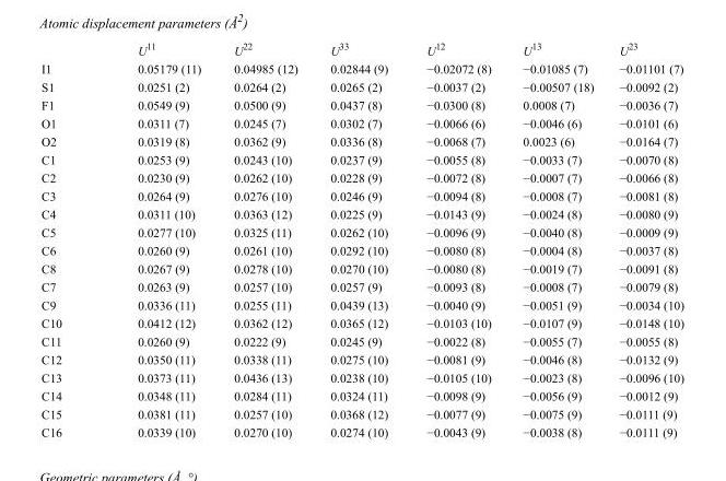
<table><thead><tr><td></td><td>U<sup>11</sup></td><td>U<sup>22</sup></td><td>U<sup>33</sup></td><td>U<sup>12</sup></td><td>U<sup>13</sup></td><td>U<sup>23</sup></td></tr></thead><tbody><tr><td>I1</td><td>0.05179 (11)</td><td>0.04985 (12)</td><td>0.02844 (9)</td><td>−0.02072 (8)</td><td>−0.01085 (7)</td><td>−0.01101 (7)</td></tr><tr><td>S1</td><td>0.0251 (2)</td><td>0.0264 (2)</td><td>0.0265 (2)</td><td>−0.0037 (2)</td><td>−0.00507 (18)</td><td>−0.0092 (2)</td></tr><tr><td>F1</td><td>0.0549 (9)</td><td>0.0500 (9)</td><td>0.0437 (8)</td><td>−0.0300 (8)</td><td>0.0008 (7)</td><td>−0.0036 (7)</td></tr><tr><td>O1</td><td>0.0311 (7)</td><td>0.0245 (7)</td><td>0.0302 (7)</td><td>−0.0066 (6)</td><td>−0.0046 (6)</td><td>−0.0101 (6)</td></tr><tr><td>O2</td><td>0.0319 (8)</td><td>0.0362 (9)</td><td>0.0336 (8)</td><td>−0.0068 (7)</td><td>0.0023 (6)</td><td>−0.0164 (7)</td></tr><tr><td>C1</td><td>0.0253 (9)</td><td>0.0243 (10)</td><td>0.0237 (9)</td><td>−0.0055 (8)</td><td>−0.0033 (7)</td><td>−0.0070 (8)</td></tr><tr><td>C2</td><td>0.0230 (9)</td><td>0.0262 (10)</td><td>0.0228 (9)</td><td>−0.0072 (8)</td><td>−0.0007 (7)</td><td>−0.0066 (8)</td></tr><tr><td>C3</td><td>0.0264 (9)</td><td>0.0276 (10)</td><td>0.0246 (9)</td><td>−0.0094 (8)</td><td>−0.0008 (7)</td><td>−0.0081 (8)</td></tr><tr><td>C4</td><td>0.0311 (10)</td><td>0.0363 (12)</td><td>0.0225 (9)</td><td>−0.0143 (9)</td><td>−0.0024 (8)</td><td>−0.0080 (9)</td></tr><tr><td>C5</td><td>0.0277 (10)</td><td>0.0325 (11)</td><td>0.0262 (10)</td><td>−0.0096 (9)</td><td>−0.0040 (8)</td><td>−0.0009 (9)</td></tr><tr><td>C6</td><td>0.0260 (9)</td><td>0.0261 (10)</td><td>0.0292 (10)</td><td>−0.0080 (8)</td><td>−0.0004 (8)</td><td>−0.0037 (8)</td></tr><tr><td>C8</td><td>0.0267 (9)</td><td>0.0278 (10)</td><td>0.0270 (10)</td><td>−0.0080 (8)</td><td>−0.0019 (7)</td><td>−0.0091 (8)</td></tr><tr><td>C7</td><td>0.0263 (9)</td><td>0.0257 (10)</td><td>0.0257 (9)</td><td>−0.0093 (8)</td><td>−0.0008 (7)</td><td>−0.0079 (8)</td></tr><tr><td>C9</td><td>0.0336 (11)</td><td>0.0255 (11)</td><td>0.0439 (13)</td><td>−0.0040 (9)</td><td>−0.0051 (9)</td><td>−0.0034 (10)</td></tr><tr><td>C10</td><td>0.0412 (12)</td><td>0.0362 (12)</td><td>0.0365 (12)</td><td>−0.0103 (10)</td><td>−0.0107 (9)</td><td>−0.0148 (10)</td></tr><tr><td>C11</td><td>0.0260 (9)</td><td>0.0222 (9)</td><td>0.0245 (9)</td><td>−0.0022 (8)</td><td>−0.0055 (7)</td><td>−0.0055 (8)</td></tr><tr><td>C12</td><td>0.0350 (11)</td><td>0.0338 (11)</td><td>0.0275 (10)</td><td>−0.0081 (9)</td><td>−0.0046 (8)</td><td>−0.0132 (9)</td></tr><tr><td>C13</td><td>0.0373 (11)</td><td>0.0436 (13)</td><td>0.0238 (10)</td><td>−0.0105 (10)</td><td>−0.0023 (8)</td><td>−0.0096 (10)</td></tr><tr><td>C14</td><td>0.0348 (11)</td><td>0.0284 (11)</td><td>0.0324 (11)</td><td>−0.0098 (9)</td><td>−0.0056 (9)</td><td>−0.0012 (9)</td></tr><tr><td>C15</td><td>0.0381 (11)</td><td>0.0257 (10)</td><td>0.0368 (12)</td><td>−0.0077 (9)</td><td>−0.0075 (9)</td><td>−0.0111 (9)</td></tr><tr><td>C16</td><td>0.0339 (10)</td><td>0.0270 (10)</td><td>0.0274 (10)</td><td>−0.0043 (9)</td><td>−0.0038 (8)</td><td>−0.0111 (9)</td></tr></tbody></table>